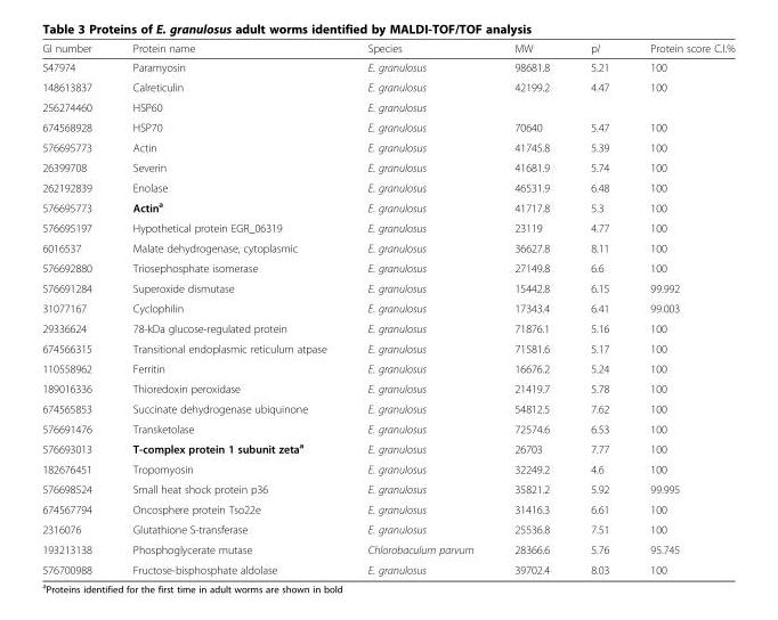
<table><thead><tr><td>GI number</td><td>Protein name</td><td>Species</td><td>MW</td><td>pI</td><td>Protein score C.I.%</td></tr></thead><tbody><tr><td>547974</td><td>Paramyosin</td><td>E. granulosus</td><td>98681.8</td><td>5.21</td><td>100</td></tr><tr><td>148613837</td><td>Calreticulin</td><td>E. granulosus</td><td>42199.2</td><td>4.47</td><td>100</td></tr><tr><td>256274460</td><td>HSP60</td><td>E. granulosus</td><td></td><td></td><td></td></tr><tr><td>674568928</td><td>HSP70</td><td>E. granulosus</td><td>70640</td><td>5.47</td><td>100</td></tr><tr><td>576695773</td><td>Actin</td><td>E. granulosus</td><td>41745.8</td><td>5.39</td><td>100</td></tr><tr><td>26399708</td><td>Severin</td><td>E. granulosus</td><td>41681.9</td><td>5.74</td><td>100</td></tr><tr><td>262192839</td><td>Enolase</td><td>E. granulosus</td><td>46531.9</td><td>6.48</td><td>100</td></tr><tr><td>576695773</td><td>Actin<sup>a</sup></td><td>E. granulosus</td><td>41717.8</td><td>5.3</td><td>100</td></tr><tr><td>576695197</td><td>Hypothetical protein EGR_06319</td><td>E. granulosus</td><td>23119</td><td>4.77</td><td>100</td></tr><tr><td>6016537</td><td>Malate dehydrogenase, cytoplasmic</td><td>E. granulosus</td><td>36627.8</td><td>8.11</td><td>100</td></tr><tr><td>576692880</td><td>Triosephosphate isomerase</td><td>E. granulosus</td><td>27149.8</td><td>6.6</td><td>100</td></tr><tr><td>576691284</td><td>Superoxide dismutase</td><td>E. granulosus</td><td>15442.8</td><td>6.15</td><td>99.992</td></tr><tr><td>31077167</td><td>Cyclophilin</td><td>E. granulosus</td><td>17343.4</td><td>6.41</td><td>99.003</td></tr><tr><td>29336624</td><td>78-kDa glucose-regulated protein</td><td>E. granulosus</td><td>71876.1</td><td>5.16</td><td>100</td></tr><tr><td>674566315</td><td>Transitional endoplasmic reticulum atpase</td><td>E. granulosus</td><td>71581.6</td><td>5.17</td><td>100</td></tr><tr><td>110558962</td><td>Ferritin</td><td>E. granulosus</td><td>16676.2</td><td>5.24</td><td>100</td></tr><tr><td>189016336</td><td>Thioredoxin peroxidase</td><td>E. granulosus</td><td>21419.7</td><td>5.78</td><td>100</td></tr><tr><td>674565853</td><td>Succinate dehydrogenase ubiquinone</td><td>E. granulosus</td><td>54812.5</td><td>7.62</td><td>100</td></tr><tr><td>576691476</td><td>Transketolase</td><td>E. granulosus</td><td>72574.6</td><td>6.53</td><td>100</td></tr><tr><td>576693013</td><td>T-complex protein 1 subunit zeta<sup>a</sup></td><td>E. granulosus</td><td>26703</td><td>7.77</td><td>100</td></tr><tr><td>182676451</td><td>Tropomyosin</td><td>E. granulosus</td><td>32249.2</td><td>4.6</td><td>100</td></tr><tr><td>576698524</td><td>Small heat shock protein p36</td><td>E. granulosus</td><td>35821.2</td><td>5.92</td><td>99.995</td></tr><tr><td>674567794</td><td>Oncosphere protein Tso22e</td><td>E. granulosus</td><td>31416.3</td><td>6.61</td><td>100</td></tr><tr><td>2316076</td><td>Glutathione S-transferase</td><td>E. granulosus</td><td>25536.8</td><td>7.51</td><td>100</td></tr><tr><td>193213138</td><td>Phosphoglycerate mutase</td><td>Chlorobaculum parvum</td><td>28366.6</td><td>5.76</td><td>95.745</td></tr><tr><td>576700988</td><td>Fructose-bisphosphate aldolase</td><td>E. granulosus</td><td>39702.4</td><td>8.03</td><td>100</td></tr></tbody></table>